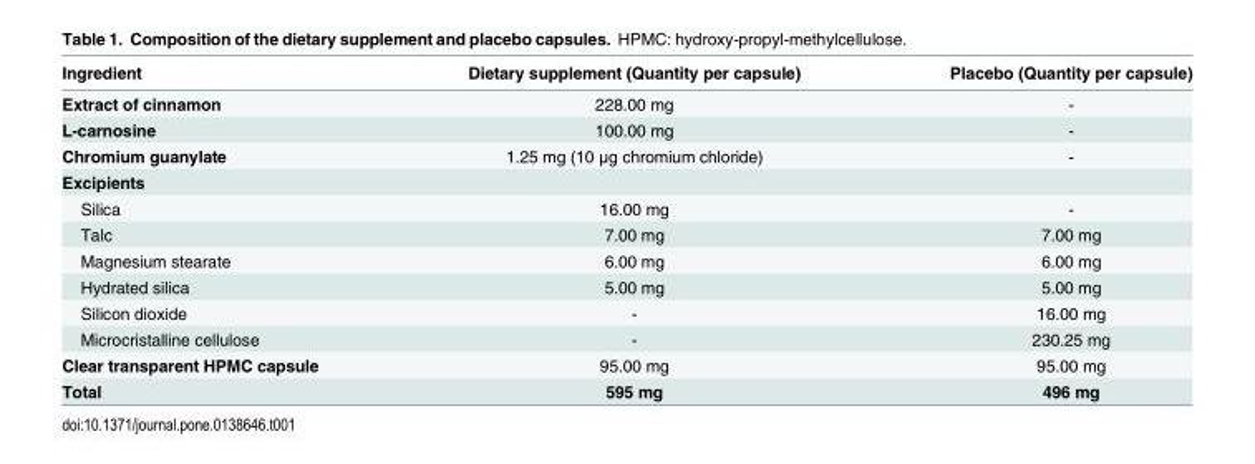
<table><thead><tr><td>Ingredient</td><td>Dietary supplement (Quantity per capsule)</td><td>Placebo (Quantity per capsule)</td></tr></thead><tbody><tr><td>Extract of cinnamon</td><td>228.00 mg</td><td>-</td></tr><tr><td>L-carnosine</td><td>100.00 mg</td><td>-</td></tr><tr><td>Chromium guanylate</td><td>1.25 mg (10 μg chromium chloride)</td><td>-</td></tr><tr><td colspan="3">Excipients</td></tr><tr><td>Silica</td><td>16.00 mg</td><td>-</td></tr><tr><td>Talc</td><td>7.00 mg</td><td>7.00 mg</td></tr><tr><td>Magnesium stearate</td><td>6.00 mg</td><td>6.00 mg</td></tr><tr><td>Hydrated silica</td><td>5.00 mg</td><td>5.00 mg</td></tr><tr><td>Silicon dioxide</td><td>-</td><td>16.00 mg</td></tr><tr><td>Microcristalline cellulose</td><td>-</td><td>230.25 mg</td></tr><tr><td>Clear transparent HPMC capsule</td><td>95.00 mg</td><td>95.00 mg</td></tr><tr><td>Total</td><td>595 mg</td><td>496 mg</td></tr></tbody></table>